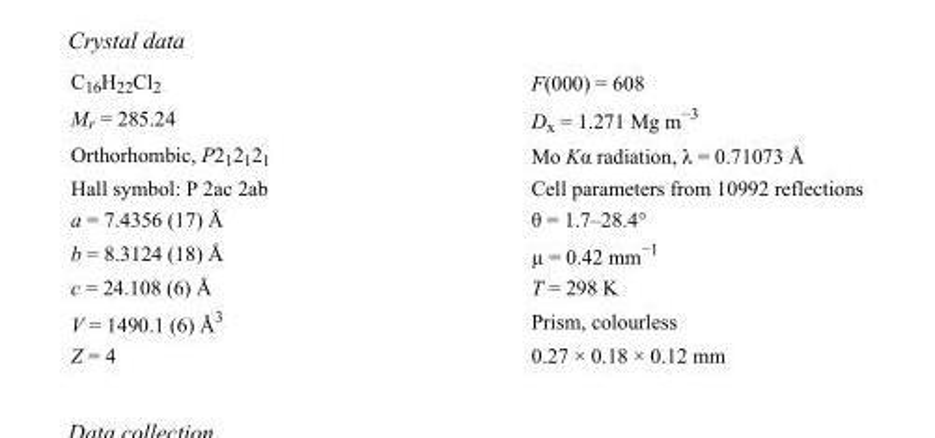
<table><tbody><tr><td>C<sub>16</sub>H<sub>22</sub>Cl<sub>2</sub></td><td>F(000) = 608</td></tr><tr><td>M<sub>r</sub> = 285.24</td><td>D<sub>x</sub> = 1.271 Mg m<sup>−3</sup></td></tr><tr><td>Orthorhombic, P2<sub>1</sub>2<sub>1</sub>2<sub>1</sub></td><td>Mo Kα radiation, λ = 0.71073 Å</td></tr><tr><td>Hall symbol: P 2ac 2ab</td><td>Cell parameters from 10992 reflections</td></tr><tr><td>a = 7.4356 (17) Å</td><td>θ = 1.7–28.4°</td></tr><tr><td>b = 8.3124 (18) Å</td><td>µ = 0.42 mm<sup>−1</sup></td></tr><tr><td>c = 24.108 (6) Å</td><td>T = 298 K</td></tr><tr><td>V = 1490.1 (6) Å<sup>3</sup></td><td>Prism, colourless</td></tr><tr><td>Z = 4</td><td>0.27 × 0.18 × 0.12 mm</td></tr></tbody></table>